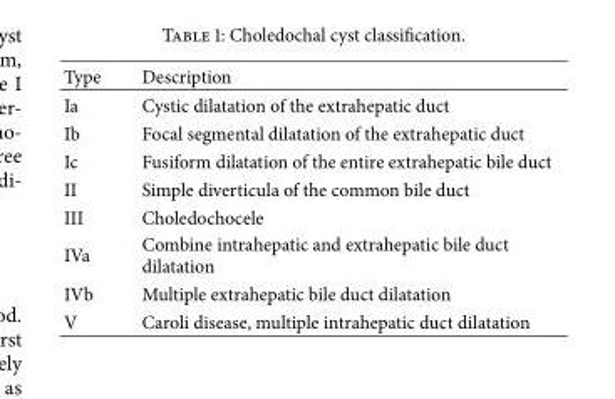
<table><thead><tr><td>Type</td><td>Description</td></tr></thead><tbody><tr><td>Ia</td><td>Cystic dilatation of the extrahepatic duct</td></tr><tr><td>Ib</td><td>Focal segmental dilatation of the extrahepatic duct</td></tr><tr><td>Ic</td><td>Fusiform dilatation of the entire extrahepatic bile duct</td></tr><tr><td>II</td><td>Simple diverticula of the common bile duct</td></tr><tr><td>III</td><td>Choledochocele</td></tr><tr><td>IVa</td><td>Combine intrahepatic and extrahepatic bile duct dilatation</td></tr><tr><td>IVb</td><td>Multiple extrahepatic bile duct dilatation</td></tr><tr><td>V</td><td>Caroli disease, multiple intrahepatic duct dilatation</td></tr></tbody></table>